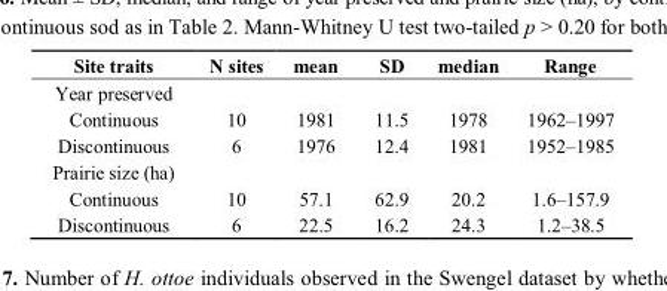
<table><thead><tr><td>Site traits</td><td>N sites</td><td>mean</td><td>SD</td><td>median</td><td>Range</td></tr></thead><tbody><tr><td colspan="6">Year preserved</td></tr><tr><td>Continuous</td><td>10</td><td>1981</td><td>11.5</td><td>1978</td><td>1962–1997</td></tr><tr><td>Discontinuous</td><td>6</td><td>1976</td><td>12.4</td><td>1981</td><td>1952–1985</td></tr><tr><td colspan="6">Prairie size (ha)</td></tr><tr><td>Continuous</td><td>10</td><td>57.1</td><td>62.9</td><td>20.2</td><td>1.6–157.9</td></tr><tr><td>Discontinuous</td><td>6</td><td>22.5</td><td>16.2</td><td>24.3</td><td>1.2–38.5</td></tr></tbody></table>